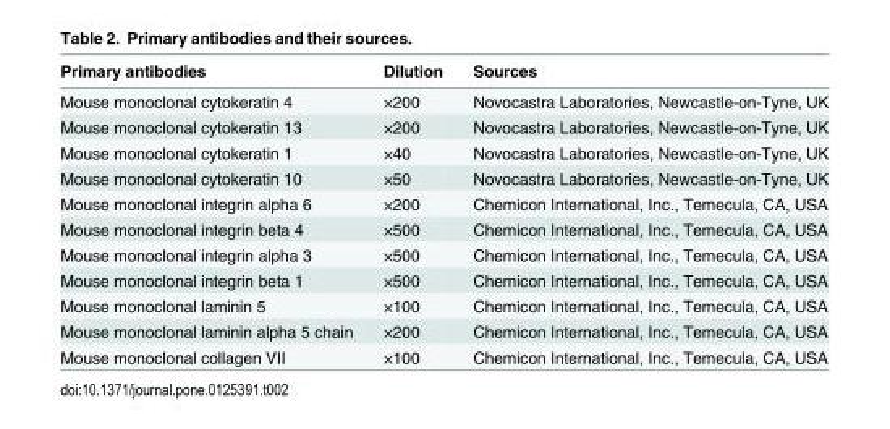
<table><thead><tr><td>Primary antibodies</td><td>Dilution</td><td>Sources</td></tr></thead><tbody><tr><td>Mouse monoclonal cytokeratin 4</td><td>×200</td><td>Novocastra Laboratories, Newcastle-on-Tyne, UK</td></tr><tr><td>Mouse monoclonal cytokeratin 13</td><td>×200</td><td>Novocastra Laboratories, Newcastle-on-Tyne, UK</td></tr><tr><td>Mouse monoclonal cytokeratin 1</td><td>×40</td><td>Novocastra Laboratories, Newcastle-on-Tyne, UK</td></tr><tr><td>Mouse monoclonal cytokeratin 10</td><td>×50</td><td>Novocastra Laboratories, Newcastle-on-Tyne, UK</td></tr><tr><td>Mouse monoclonal integrin alpha 6</td><td>×200</td><td>Chemicon International, Inc., Temecula, CA, USA</td></tr><tr><td>Mouse monoclonal integrin beta 4</td><td>×500</td><td>Chemicon International, Inc., Temecula, CA, USA</td></tr><tr><td>Mouse monoclonal integrin alpha 3</td><td>×500</td><td>Chemicon International, Inc., Temecula, CA, USA</td></tr><tr><td>Mouse monoclonal integrin beta 1</td><td>×500</td><td>Chemicon International, Inc., Temecula, CA, USA</td></tr><tr><td>Mouse monoclonal laminin 5</td><td>×100</td><td>Chemicon International, Inc., Temecula, CA, USA</td></tr><tr><td>Mouse monoclonal laminin alpha 5 chain</td><td>×200</td><td>Chemicon International, Inc., Temecula, CA, USA</td></tr><tr><td>Mouse monoclonal collagen VII</td><td>×100</td><td>Chemicon International, Inc., Temecula, CA, USA</td></tr></tbody></table>